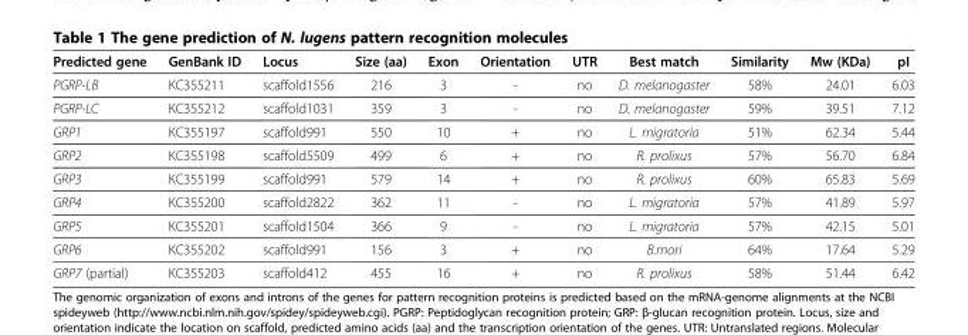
<table><thead><tr><td>Predicted gene</td><td>GenBank ID</td><td>Locus</td><td>Size (aa)</td><td>Exon</td><td>Orientation</td><td>UTR</td><td>Best match</td><td>Similarity</td><td>Mw (KDa)</td><td>pI</td></tr></thead><tbody><tr><td>PGRP-LB</td><td>KC355211</td><td>scaffold1556</td><td>216</td><td>3</td><td>-</td><td>no</td><td>D. melanogaster</td><td>58%</td><td>24.01</td><td>6.03</td></tr><tr><td>PGRP-LC</td><td>KC355212</td><td>scaffold1031</td><td>359</td><td>3</td><td>-</td><td>no</td><td>D. melanogaster</td><td>59%</td><td>39.51</td><td>7.12</td></tr><tr><td>GRP1</td><td>KC355197</td><td>scaffold991</td><td>550</td><td>10</td><td>+</td><td>no</td><td>L. migratoria</td><td>51%</td><td>62.34</td><td>5.44</td></tr><tr><td>GRP2</td><td>KC355198</td><td>scaffold5509</td><td>499</td><td>6</td><td>+</td><td>no</td><td>R. prolixus</td><td>57%</td><td>56.70</td><td>6.84</td></tr><tr><td>GRP3</td><td>KC355199</td><td>scaffold991</td><td>579</td><td>14</td><td>+</td><td>no</td><td>R. prolixus</td><td>60%</td><td>65.83</td><td>5.69</td></tr><tr><td>GRP4</td><td>KC355200</td><td>scaffold2822</td><td>362</td><td>11</td><td>-</td><td>no</td><td>L. migratoria</td><td>57%</td><td>41.89</td><td>5.97</td></tr><tr><td>GRP5</td><td>KC355201</td><td>scaffold1504</td><td>366</td><td>9</td><td>-</td><td>no</td><td>L. migratoria</td><td>57%</td><td>42.15</td><td>5.01</td></tr><tr><td>GRP6</td><td>KC355202</td><td>scaffold991</td><td>156</td><td>3</td><td>+</td><td>no</td><td>B.mori</td><td>64%</td><td>17.64</td><td>5.29</td></tr><tr><td>GRP7 (partial)</td><td>KC355203</td><td>scaffold412</td><td>455</td><td>16</td><td>+</td><td>no</td><td>R. prolixus</td><td>58%</td><td>51.44</td><td>6.42</td></tr></tbody></table>